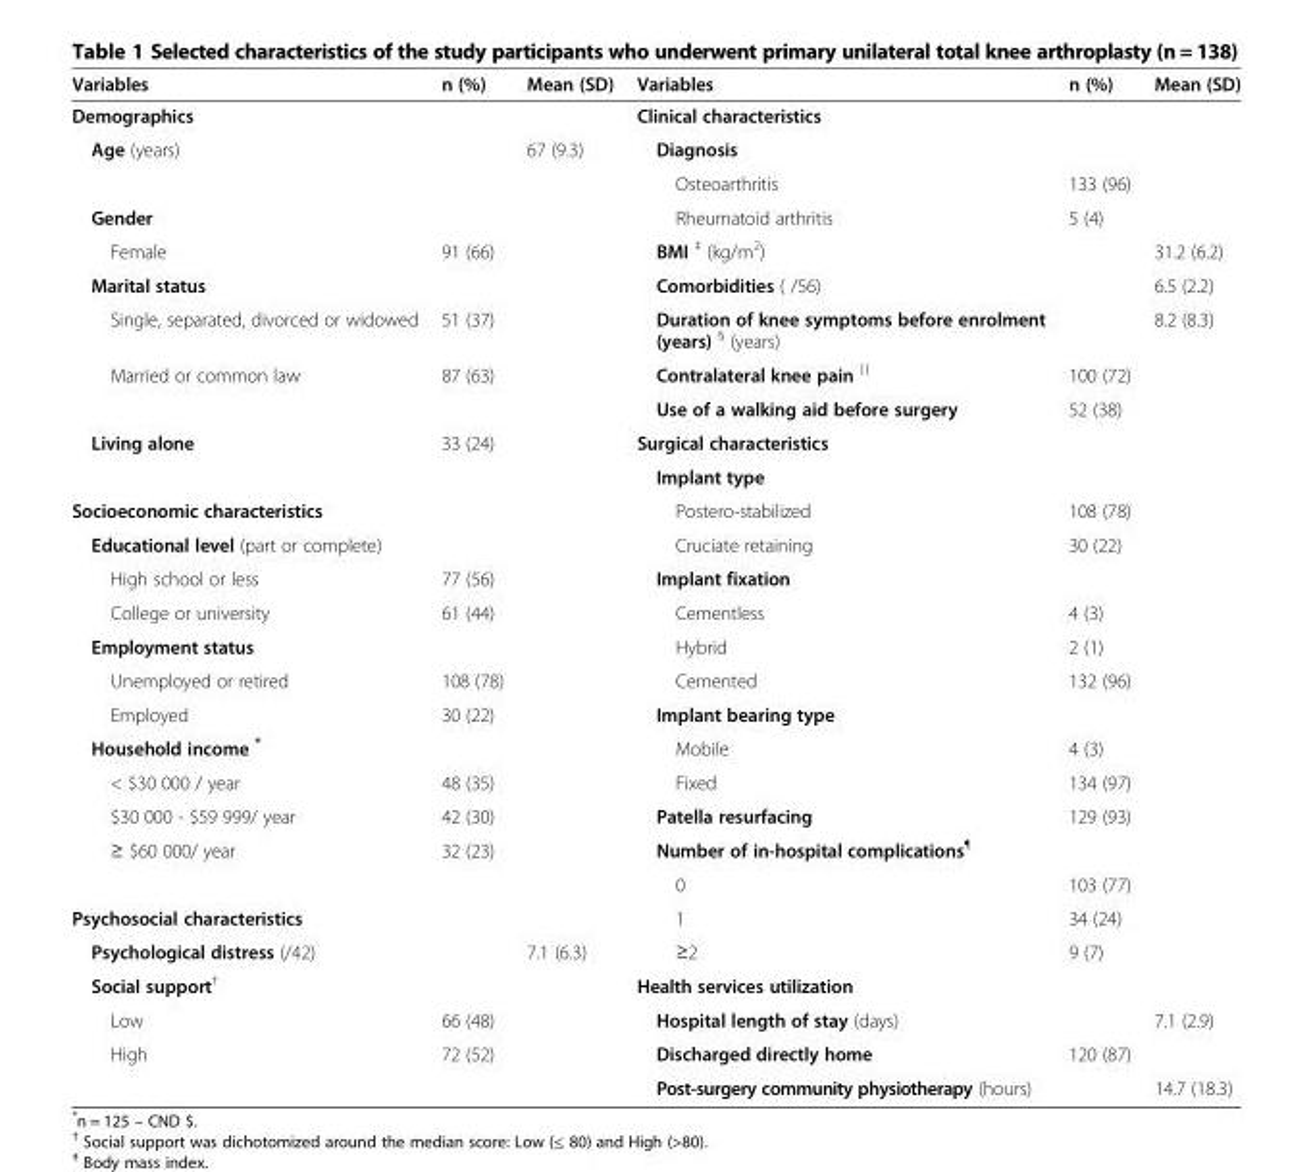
<table><thead><tr><td>Variables</td><td>n (%)</td><td>Mean (SD)</td><td>Variables</td><td>n (%)</td><td>Mean (SD)</td></tr></thead><tbody><tr><td>Demographics</td><td></td><td></td><td>Clinical characteristics</td><td></td><td></td></tr><tr><td rowspan="2">Age (years)</td><td></td><td>67 (9.3)</td><td>Diagnosis</td><td></td><td></td></tr><tr><td></td><td></td><td>Osteoarthritis</td><td>133 (96)</td><td></td></tr><tr><td>Gender</td><td></td><td></td><td>Rheumatoid arthritis</td><td>5 (4)</td><td></td></tr><tr><td>Female</td><td>91 (66)</td><td></td><td>BMI <sup>‡</sup> (kg/m<sup>2</sup>)</td><td></td><td>31.2 (6.2)</td></tr><tr><td>Marital status</td><td></td><td></td><td>Comorbidities ( /56)</td><td></td><td>6.5 (2.2)</td></tr><tr><td>Single, separated, divorced or widowed</td><td>51 (37)</td><td></td><td>Duration of knee symptoms before enrolment (years) <sup>§</sup> (years)</td><td></td><td>8.2 (8.3)</td></tr><tr><td rowspan="2">Married or common law</td><td>87 (63)</td><td></td><td>Contralateral knee pain <sup>∣∣</sup></td><td>100 (72)</td><td></td></tr><tr><td></td><td></td><td>Use of a walking aid before surgery</td><td>52 (38)</td><td></td></tr><tr><td rowspan="2">Living alone</td><td>33 (24)</td><td></td><td>Surgical characteristics</td><td></td><td></td></tr><tr><td></td><td></td><td>Implant type</td><td></td><td></td></tr><tr><td>Socioeconomic characteristics</td><td></td><td></td><td>Postero-stabilized</td><td>108 (78)</td><td></td></tr><tr><td>Educational level (part or complete)</td><td></td><td></td><td>Cruciate retaining</td><td>30 (22)</td><td></td></tr><tr><td>High school or less</td><td>77 (56)</td><td></td><td>Implant fixation</td><td></td><td></td></tr><tr><td>College or university</td><td>61 (44)</td><td></td><td>Cementless</td><td>4 (3)</td><td></td></tr><tr><td>Employment status</td><td></td><td></td><td>Hybrid</td><td>2 (1)</td><td></td></tr><tr><td>Unemployed or retired</td><td>108 (78)</td><td></td><td>Cemented</td><td>132 (96)</td><td></td></tr><tr><td>Employed</td><td>30 (22)</td><td></td><td>Implant bearing type</td><td></td><td></td></tr><tr><td>Household income *</td><td></td><td></td><td>Mobile</td><td>4 (3)</td><td></td></tr><tr><td>&lt; $30 000 / year</td><td>48 (35)</td><td></td><td>Fixed</td><td>134 (97)</td><td></td></tr><tr><td>$30 000 - $59 999/ year</td><td>42 (30)</td><td></td><td>Patella resurfacing</td><td>129 (93)</td><td></td></tr><tr><td rowspan="2">≥ $60 000/ year</td><td>32 (23)</td><td></td><td>Number of in-hospital complications<sup>¶</sup></td><td></td><td></td></tr><tr><td></td><td></td><td>0</td><td>103 (77)</td><td></td></tr><tr><td>Psychosocial characteristics</td><td></td><td></td><td>1</td><td>34 (24)</td><td></td></tr><tr><td>Psychological distress (/42)</td><td></td><td>7.1 (6.3)</td><td>≥2</td><td>9 (7)</td><td></td></tr><tr><td>Social support<sup>†</sup></td><td></td><td></td><td>Health services utilization</td><td></td><td></td></tr><tr><td>Low</td><td>66 (48)</td><td></td><td>Hospital length of stay (days)</td><td></td><td>7.1 (2.9)</td></tr><tr><td rowspan="2">High</td><td>72 (52)</td><td></td><td>Discharged directly home</td><td>120 (87)</td><td></td></tr><tr><td></td><td></td><td>Post-surgery community physiotherapy (hours)</td><td></td><td>14.7 (18.3)</td></tr></tbody></table>